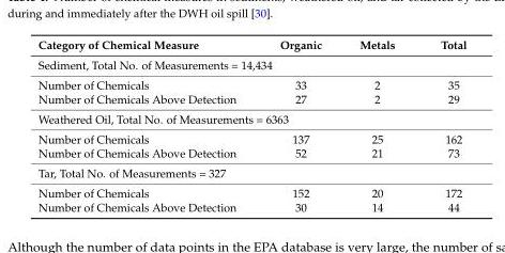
<table><thead><tr><td>Category of Chemical Measure</td><td>Organic</td><td>Metals</td><td>Total</td></tr></thead><tbody><tr><td colspan="4">Sediment, Total No. of Measurements = 14,434</td></tr><tr><td>Number of Chemicals</td><td>33</td><td>2</td><td>35</td></tr><tr><td>Number of Chemicals Above Detection</td><td>27</td><td>2</td><td>29</td></tr><tr><td colspan="4">Weathered Oil, Total No. of Measurements = 6363</td></tr><tr><td>Number of Chemicals</td><td>137</td><td>25</td><td>162</td></tr><tr><td>Number of Chemicals Above Detection</td><td>52</td><td>21</td><td>73</td></tr><tr><td colspan="4">Tar, Total No. of Measurements = 327</td></tr><tr><td>Number of Chemicals</td><td>152</td><td>20</td><td>172</td></tr><tr><td>Number of Chemicals Above Detection</td><td>30</td><td>14</td><td>44</td></tr></tbody></table>